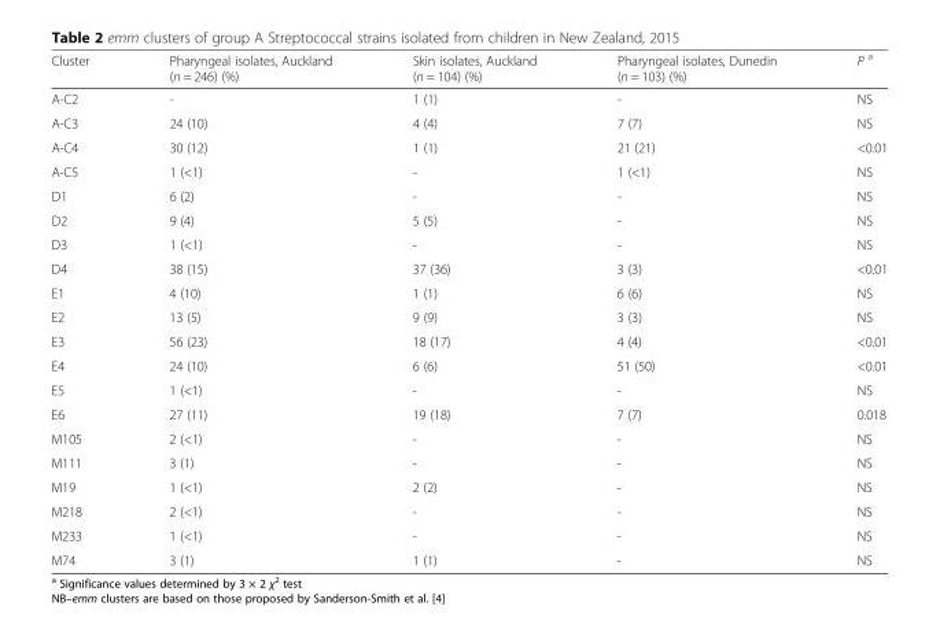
<table><thead><tr><td>Cluster</td><td>Pharyngeal isolates, Auckland (n = 246) (%)</td><td>Skin isolates, Auckland (n = 104) (%)</td><td>Pharyngeal isolates, Dunedin (n = 103) (%)</td><td>P <sup>a</sup></td></tr></thead><tbody><tr><td>A-C2</td><td>-</td><td>1 (1)</td><td>-</td><td>NS</td></tr><tr><td>A-C3</td><td>24 (10)</td><td>4 (4)</td><td>7 (7)</td><td>NS</td></tr><tr><td>A-C4</td><td>30 (12)</td><td>1 (1)</td><td>21 (21)</td><td>&lt;0.01</td></tr><tr><td>A-C5</td><td>1 (&lt;1)</td><td>-</td><td>1 (&lt;1)</td><td>NS</td></tr><tr><td>D1</td><td>6 (2)</td><td>-</td><td>-</td><td>NS</td></tr><tr><td>D2</td><td>9 (4)</td><td>5 (5)</td><td>-</td><td>NS</td></tr><tr><td>D3</td><td>1 (&lt;1)</td><td>-</td><td>-</td><td>NS</td></tr><tr><td>D4</td><td>38 (15)</td><td>37 (36)</td><td>3 (3)</td><td>&lt;0.01</td></tr><tr><td>E1</td><td>4 (10)</td><td>1 (1)</td><td>6 (6)</td><td>NS</td></tr><tr><td>E2</td><td>13 (5)</td><td>9 (9)</td><td>3 (3)</td><td>NS</td></tr><tr><td>E3</td><td>56 (23)</td><td>18 (17)</td><td>4 (4)</td><td>&lt;0.01</td></tr><tr><td>E4</td><td>24 (10)</td><td>6 (6)</td><td>51 (50)</td><td>&lt;0.01</td></tr><tr><td>E5</td><td>1 (&lt;1)</td><td>-</td><td>-</td><td>NS</td></tr><tr><td>E6</td><td>27 (11)</td><td>19 (18)</td><td>7 (7)</td><td>0.018</td></tr><tr><td>M105</td><td>2 (&lt;1)</td><td>-</td><td>-</td><td>NS</td></tr><tr><td>M111</td><td>3 (1)</td><td>-</td><td>-</td><td>NS</td></tr><tr><td>M19</td><td>1 (&lt;1)</td><td>2 (2)</td><td>-</td><td>NS</td></tr><tr><td>M218</td><td>2 (&lt;1)</td><td>-</td><td>-</td><td>NS</td></tr><tr><td>M233</td><td>1 (&lt;1)</td><td>-</td><td>-</td><td>NS</td></tr><tr><td>M74</td><td>3 (1)</td><td>1 (1)</td><td>-</td><td>NS</td></tr></tbody></table>